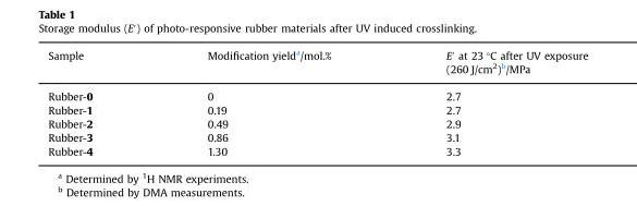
<table><thead><tr><td>Sample</td><td>Modification yield<sup>a</sup>/mol.%</td><td>E′ at 23 °C after UV exposure (260 J/cm<sup>2</sup>)<sup>b</sup>/MPa</td></tr></thead><tbody><tr><td>Rubber-0</td><td>0</td><td>2.7</td></tr><tr><td>Rubber-1</td><td>0.19</td><td>2.7</td></tr><tr><td>Rubber-2</td><td>0.49</td><td>2.9</td></tr><tr><td>Rubber-3</td><td>0.86</td><td>3.1</td></tr><tr><td>Rubber-4</td><td>1.30</td><td>3.3</td></tr></tbody></table>